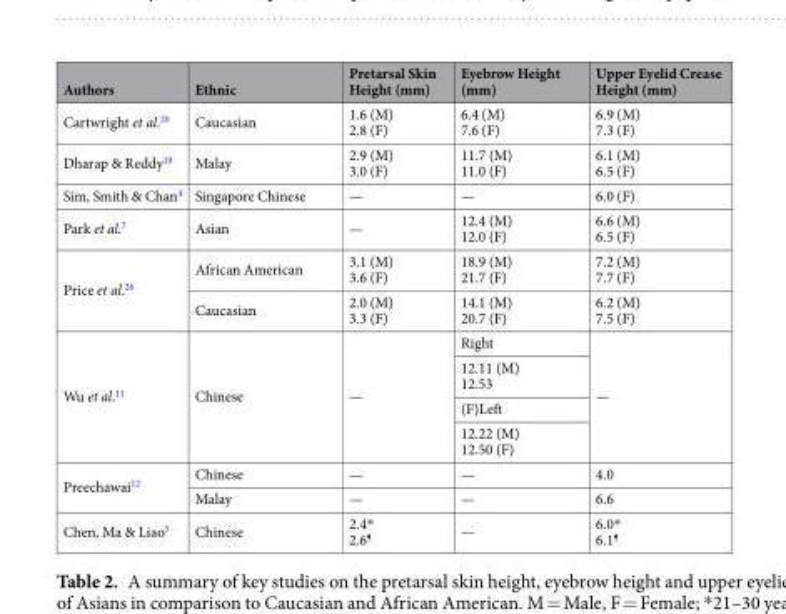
<table><thead><tr><td>Authors</td><td>Ethnic</td><td>Pretarsal Skin Height (mm)</td><td>Eyebrow Height (mm)</td><td>Upper Eyelid Crease Height (mm)</td></tr></thead><tbody><tr><td>Cartwright et al.<sup>20</sup></td><td>Caucasian</td><td>1.6 (M) 2.8 (F)</td><td>6.4 (M) 7.6 (F)</td><td>6.9 (M) 7.3 (F)</td></tr><tr><td>Dharap &amp; Reddy<sup>10</sup></td><td>Malay</td><td>2.9 (M) 3.0 (F)</td><td>11.7 (M) 11.0 (F)</td><td>6.1 (M) 6.5 (F)</td></tr><tr><td>Sim, Smith &amp; Chan<sup>4</sup></td><td>Singapore Chinese</td><td>—</td><td>—</td><td>6.0 (F)</td></tr><tr><td>Park et al.<sup>7</sup></td><td>Asian</td><td>—</td><td>12.4 (M) 12.0 (F)</td><td>6.6 (M) 6.5 (F)</td></tr><tr><td rowspan="2">Price et al.<sup>26</sup></td><td>African American</td><td>3.1 (M) 3.6 (F)</td><td>18.9 (M) 21.7 (F)</td><td>7.2 (M) 7.7 (F)</td></tr><tr><td>Caucasian</td><td>2.0 (M) 3.3 (F)</td><td>14.1 (M) 20.7 (F)</td><td>6.2 (M) 7.5 (F)</td></tr><tr><td rowspan="4">Wu et al.<sup>11</sup></td><td rowspan="4">Chinese</td><td rowspan="4">—</td><td>Right</td><td rowspan="4">—</td></tr><tr><td>12.11 (M) 12.53</td></tr><tr><td>(F)Left</td></tr><tr><td>12.22 (M) 12.50 (F)</td></tr><tr><td rowspan="2">Preechawai<sup>12</sup></td><td>Chinese</td><td>—</td><td>—</td><td>4.0</td></tr><tr><td>Malay</td><td>—</td><td>—</td><td>6.6</td></tr><tr><td>Chen, Ma &amp; Liao<sup>5</sup></td><td>Chinese</td><td>2.4* 2.6<sup>¶</sup></td><td>—</td><td>6.0* 6.1<sup>¶</sup></td></tr></tbody></table>